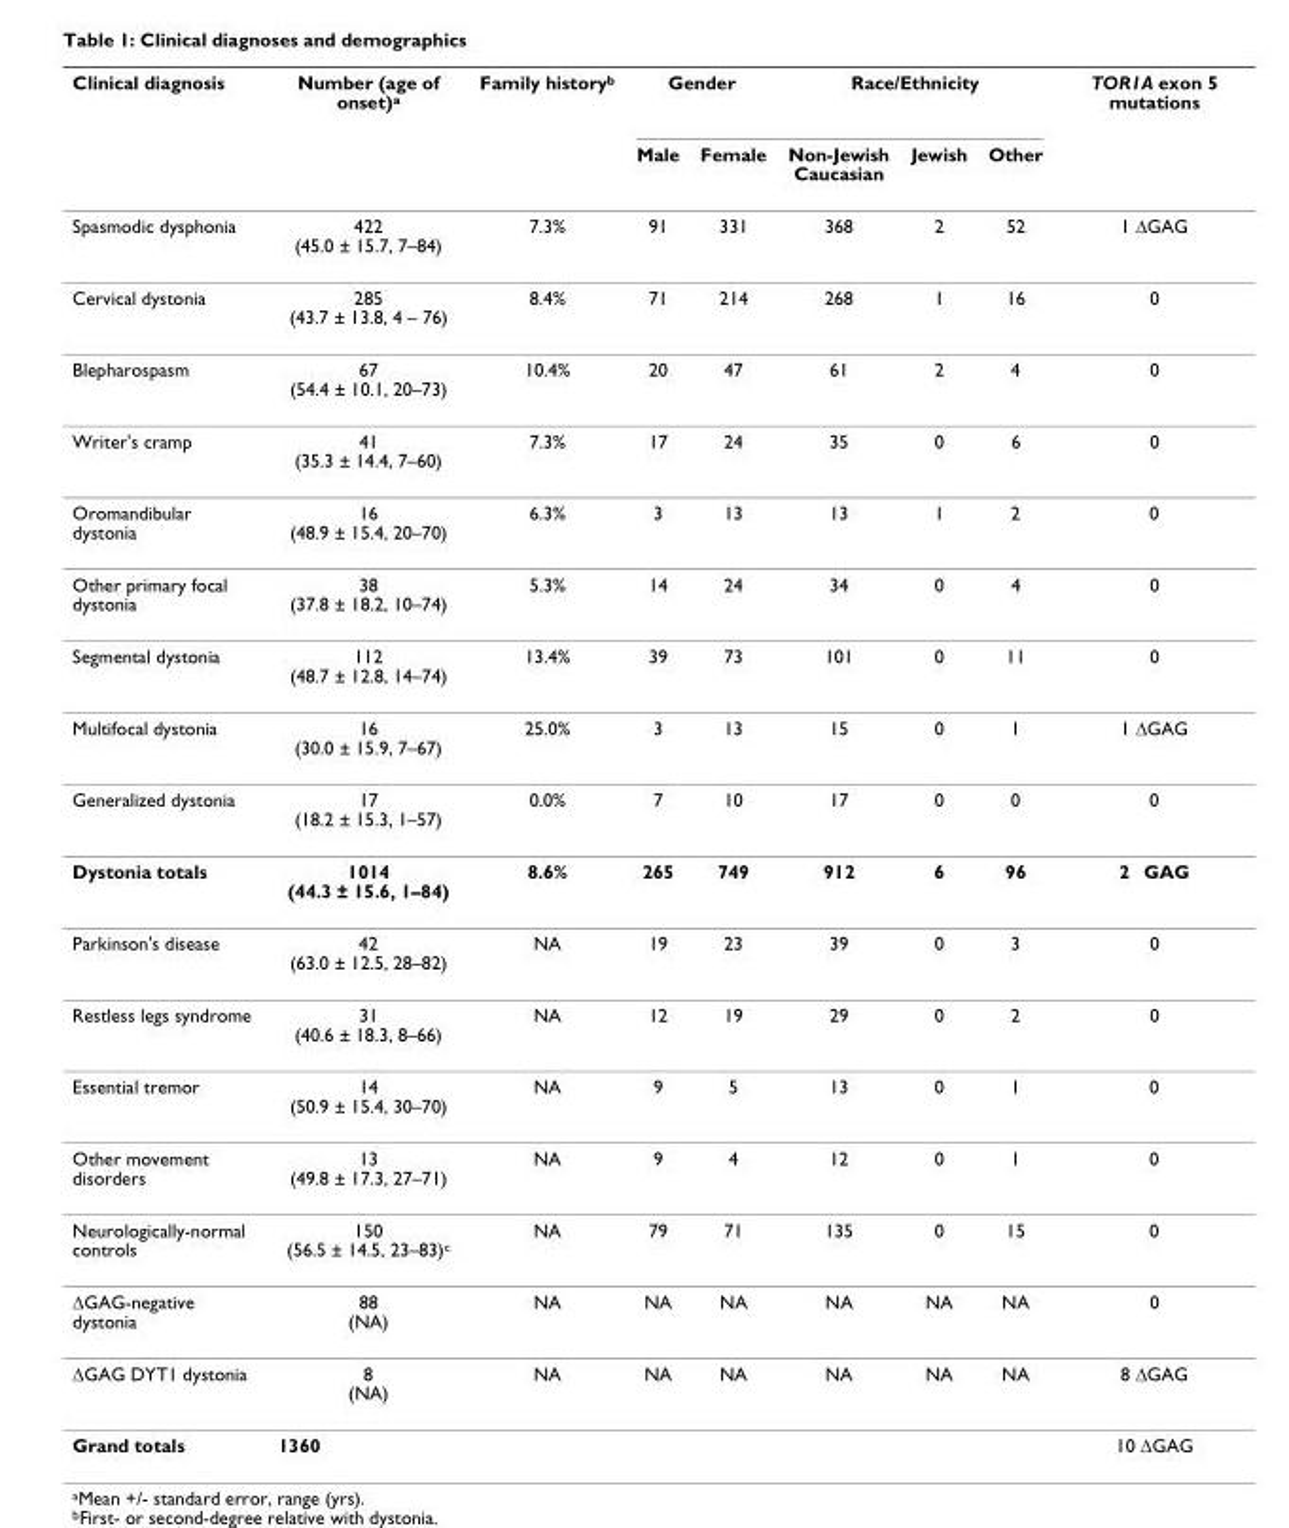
<table><thead><tr><td rowspan="2">Clinical diagnosis</td><td rowspan="2">Number (age of onset)<sup>a</sup></td><td rowspan="2">Family history<sup>b</sup></td><td colspan="2">Gender</td><td colspan="3">Race/Ethnicity</td><td rowspan="2">TOR1A exon 5 mutations</td></tr><tr><td>Male</td><td>Female</td><td>Non-Jewish Caucasian</td><td>Jewish</td><td>Other</td></tr></thead><tbody><tr><td>Spasmodic dysphonia</td><td>422 (45.0 ± 15.7, 7–84)</td><td>7.3%</td><td>91</td><td>331</td><td>368</td><td>2</td><td>52</td><td>1 ΔGAG</td></tr><tr><td>Cervical dystonia</td><td>285 (43.7 ± 13.8, 4 – 76)</td><td>8.4%</td><td>71</td><td>214</td><td>268</td><td>1</td><td>16</td><td>0</td></tr><tr><td>Blepharospasm</td><td>67 (54.4 ± 10.1, 20–73)</td><td>10.4%</td><td>20</td><td>47</td><td>61</td><td>2</td><td>4</td><td>0</td></tr><tr><td>Writer&#x27;s cramp</td><td>41 (35.3 ± 14.4, 7–60)</td><td>7.3%</td><td>17</td><td>24</td><td>35</td><td>0</td><td>6</td><td>0</td></tr><tr><td>Oromandibular dystonia</td><td>16 (48.9 ± 15.4, 20–70)</td><td>6.3%</td><td>3</td><td>13</td><td>13</td><td>1</td><td>2</td><td>0</td></tr><tr><td>Other primary focal dystonia</td><td>38 (37.8 ± 18.2, 10–74)</td><td>5.3%</td><td>14</td><td>24</td><td>34</td><td>0</td><td>4</td><td>0</td></tr><tr><td>Segmental dystonia</td><td>112 (48.7 ± 12.8, 14–74)</td><td>13.4%</td><td>39</td><td>73</td><td>101</td><td>0</td><td>11</td><td>0</td></tr><tr><td>Multifocal dystonia</td><td>16 (30.0 ± 15.9, 7–67)</td><td>25.0%</td><td>3</td><td>13</td><td>15</td><td>0</td><td>1</td><td>1 ΔGAG</td></tr><tr><td>Generalized dystonia</td><td>17 (18.2 ± 15.3, 1–57)</td><td>0.0%</td><td>7</td><td>10</td><td>17</td><td>0</td><td>0</td><td>0</td></tr><tr><td>Dystonia totals</td><td>1014 (44.3 ± 15.6, 1–84)</td><td>8.6%</td><td>265</td><td>749</td><td>912</td><td>6</td><td>96</td><td>2 GAG</td></tr><tr><td>Parkinson&#x27;s disease</td><td>42 (63.0 ± 12.5, 28–82)</td><td>NA</td><td>19</td><td>23</td><td>39</td><td>0</td><td>3</td><td>0</td></tr><tr><td>Restless legs syndrome</td><td>31 (40.6 ± 18.3, 8–66)</td><td>NA</td><td>12</td><td>19</td><td>29</td><td>0</td><td>2</td><td>0</td></tr><tr><td>Essential tremor</td><td>14 (50.9 ± 15.4, 30–70)</td><td>NA</td><td>9</td><td>5</td><td>13</td><td>0</td><td>1</td><td>0</td></tr><tr><td>Other movement disorders</td><td>13 (49.8 ± 17.3, 27–71)</td><td>NA</td><td>9</td><td>4</td><td>12</td><td>0</td><td>1</td><td>0</td></tr><tr><td>Neurologically-normal controls</td><td>150 (56.5 ± 14.5, 23–83)<sup>c</sup></td><td>NA</td><td>79</td><td>71</td><td>135</td><td>0</td><td>15</td><td>0</td></tr><tr><td>ΔGAG-negative dystonia</td><td>88 (NA)</td><td>NA</td><td>NA</td><td>NA</td><td>NA</td><td>NA</td><td>NA</td><td>0</td></tr><tr><td>ΔGAG DYT1 dystonia</td><td>8 (NA)</td><td>NA</td><td>NA</td><td>NA</td><td>NA</td><td>NA</td><td>NA</td><td>8 ΔGAG</td></tr><tr><td>Grand totals</td><td colspan="7">1360</td><td>10 ΔGAG</td></tr></tbody></table>